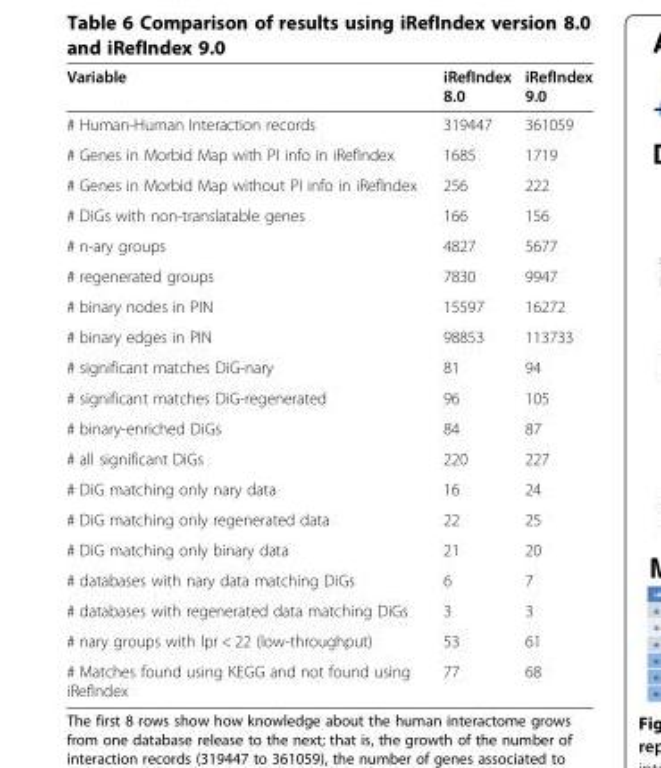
<table><thead><tr><td>Variable</td><td>iRefIndex 8.0</td><td>iRefIndex 9.0</td></tr></thead><tbody><tr><td># Human-Human Interaction records</td><td>319447</td><td>361059</td></tr><tr><td># Genes in Morbid Map with PI info in iRefIndex</td><td>1685</td><td>1719</td></tr><tr><td># Genes in Morbid Map without PI info in iRefIndex</td><td>256</td><td>222</td></tr><tr><td># DiGs with non-translatable genes</td><td>166</td><td>156</td></tr><tr><td># n-ary groups</td><td>4827</td><td>5677</td></tr><tr><td># regenerated groups</td><td>7830</td><td>9947</td></tr><tr><td># binary nodes in PIN</td><td>15597</td><td>16272</td></tr><tr><td># binary edges in PIN</td><td>98853</td><td>113733</td></tr><tr><td># significant matches DiG-nary</td><td>81</td><td>94</td></tr><tr><td># significant matches DiG-regenerated</td><td>96</td><td>105</td></tr><tr><td># binary-enriched DiGs</td><td>84</td><td>87</td></tr><tr><td># all significant DiGs</td><td>220</td><td>227</td></tr><tr><td># DiG matching only nary data</td><td>16</td><td>24</td></tr><tr><td># DiG matching only regenerated data</td><td>22</td><td>25</td></tr><tr><td># DiG matching only binary data</td><td>21</td><td>20</td></tr><tr><td># databases with nary data matching DiGs</td><td>6</td><td>7</td></tr><tr><td># databases with regenerated data matching DiGs</td><td>3</td><td>3</td></tr><tr><td># nary groups with lpr &lt; 22 (low-throughput)</td><td>53</td><td>61</td></tr><tr><td># Matches found using KEGG and not found using iRefIndex</td><td>77</td><td>68</td></tr></tbody></table>